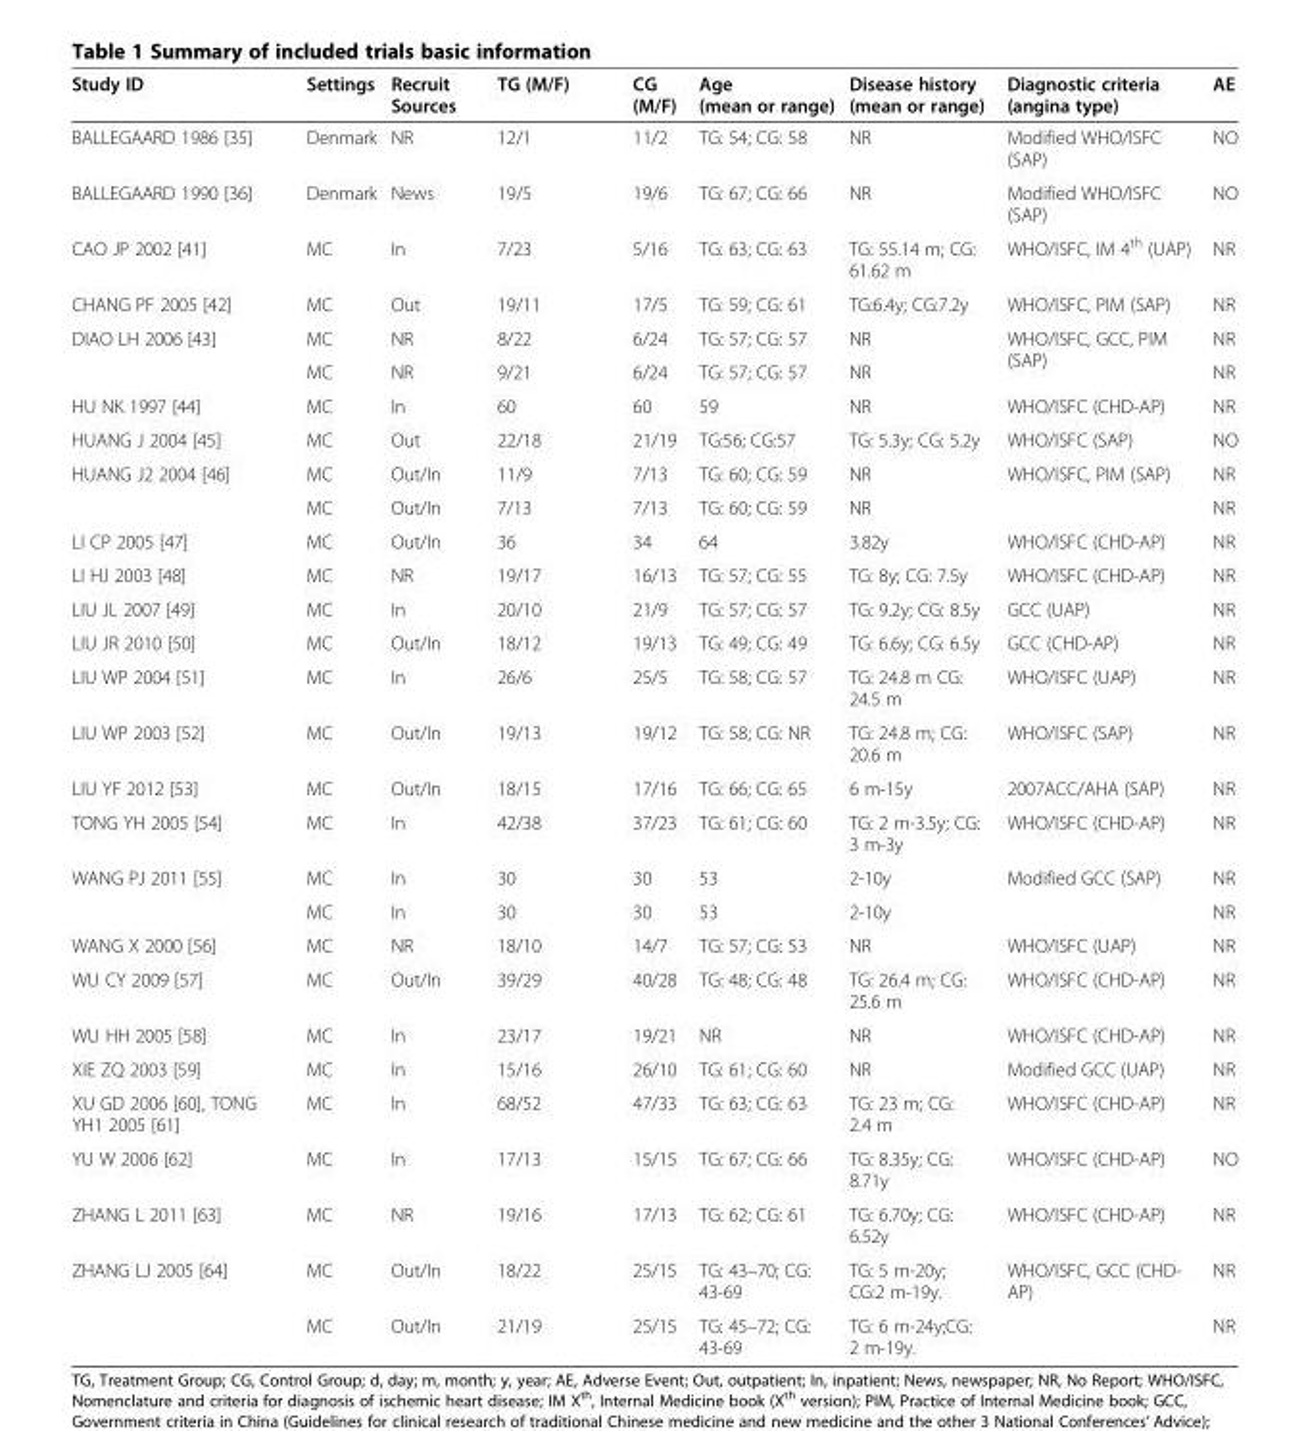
<table><thead><tr><td>Study ID</td><td>Settings</td><td>Recruit Sources</td><td>TG (M/F)</td><td>CG (M/F)</td><td>Age (mean or range)</td><td>Disease history (mean or range)</td><td>Diagnostic criteria (angina type)</td><td>AE</td></tr></thead><tbody><tr><td>BALLEGAARD 1986 [35]</td><td>Denmark</td><td>NR</td><td>12/1</td><td>11/2</td><td>TG: 54; CG: 58</td><td>NR</td><td>Modified WHO/ISFC (SAP)</td><td>NO</td></tr><tr><td>BALLEGAARD 1990 [36]</td><td>Denmark</td><td>News</td><td>19/5</td><td>19/6</td><td>TG: 67; CG: 66</td><td>NR</td><td>Modified WHO/ISFC (SAP)</td><td>NO</td></tr><tr><td>CAO JP 2002 [41]</td><td>MC</td><td>In</td><td>7/23</td><td>5/16</td><td>TG: 63; CG: 63</td><td>TG: 55.14 m; CG: 61.62 m</td><td>WHO/ISFC, IM 4<sup>th</sup> (UAP)</td><td>NR</td></tr><tr><td>CHANG PF 2005 [42]</td><td>MC</td><td>Out</td><td>19/11</td><td>17/5</td><td>TG: 59; CG: 61</td><td>TG:6.4y; CG:7.2y</td><td>WHO/ISFC, PIM (SAP)</td><td>NR</td></tr><tr><td rowspan="2">DIAO LH 2006 [43]</td><td>MC</td><td>NR</td><td>8/22</td><td>6/24</td><td>TG: 57; CG: 57</td><td>NR</td><td rowspan="2">WHO/ISFC, GCC, PIM (SAP)</td><td>NR</td></tr><tr><td>MC</td><td>NR</td><td>9/21</td><td>6/24</td><td>TG: 57; CG: 57</td><td>NR</td><td>NR</td></tr><tr><td>HU NK 1997 [44]</td><td>MC</td><td>In</td><td>60</td><td>60</td><td>59</td><td>NR</td><td>WHO/ISFC (CHD-AP)</td><td>NR</td></tr><tr><td>HUANG J 2004 [45]</td><td>MC</td><td>Out</td><td>22/18</td><td>21/19</td><td>TG:56; CG:57</td><td>TG: 5.3y; CG: 5.2y</td><td>WHO/ISFC (SAP)</td><td>NO</td></tr><tr><td rowspan="2">HUANG J2 2004 [46]</td><td>MC</td><td>Out/In</td><td>11/9</td><td>7/13</td><td>TG: 60; CG: 59</td><td>NR</td><td rowspan="2">WHO/ISFC, PIM (SAP)</td><td>NR</td></tr><tr><td>MC</td><td>Out/In</td><td>7/13</td><td>7/13</td><td>TG: 60; CG: 59</td><td>NR</td><td>NR</td></tr><tr><td>LI CP 2005 [47]</td><td>MC</td><td>Out/In</td><td>36</td><td>34</td><td>64</td><td>3.82y</td><td>WHO/ISFC (CHD-AP)</td><td>NR</td></tr><tr><td>LI HJ 2003 [48]</td><td>MC</td><td>NR</td><td>19/17</td><td>16/13</td><td>TG: 57; CG: 55</td><td>TG: 8y; CG: 7.5y</td><td>WHO/ISFC (CHD-AP)</td><td>NR</td></tr><tr><td>LIU JL 2007 [49]</td><td>MC</td><td>In</td><td>20/10</td><td>21/9</td><td>TG: 57; CG: 57</td><td>TG: 9.2y; CG: 8.5y</td><td>GCC (UAP)</td><td>NR</td></tr><tr><td>LIU JR 2010 [50]</td><td>MC</td><td>Out/In</td><td>18/12</td><td>19/13</td><td>TG: 49; CG: 49</td><td>TG: 6.6y; CG: 6.5y</td><td>GCC (CHD-AP)</td><td>NR</td></tr><tr><td>LIU WP 2004 [51]</td><td>MC</td><td>In</td><td>26/6</td><td>25/5</td><td>TG: 58; CG: 57</td><td>TG: 24.8 m CG: 24.5 m</td><td>WHO/ISFC (UAP)</td><td>NR</td></tr><tr><td>LIU WP 2003 [52]</td><td>MC</td><td>Out/In</td><td>19/13</td><td>19/12</td><td>TG: 58; CG: NR</td><td>TG: 24.8 m; CG: 20.6 m</td><td>WHO/ISFC (SAP)</td><td>NR</td></tr><tr><td>LIU YF 2012 [53]</td><td>MC</td><td>Out/In</td><td>18/15</td><td>17/16</td><td>TG: 66; CG: 65</td><td>6 m-15y</td><td>2007ACC/AHA (SAP)</td><td>NR</td></tr><tr><td>TONG YH 2005 [54]</td><td>MC</td><td>In</td><td>42/38</td><td>37/23</td><td>TG: 61; CG: 60</td><td>TG: 2 m-3.5y; CG: 3 m-3y</td><td>WHO/ISFC (CHD-AP)</td><td>NR</td></tr><tr><td rowspan="2">WANG PJ 2011 [55]</td><td>MC</td><td>In</td><td>30</td><td>30</td><td>53</td><td>2-10y</td><td rowspan="2">Modified GCC (SAP)</td><td>NR</td></tr><tr><td>MC</td><td>In</td><td>30</td><td>30</td><td>53</td><td>2-10y</td><td>NR</td></tr><tr><td>WANG X 2000 [56]</td><td>MC</td><td>NR</td><td>18/10</td><td>14/7</td><td>TG: 57; CG: 53</td><td>NR</td><td>WHO/ISFC (UAP)</td><td>NR</td></tr><tr><td>WU CY 2009 [57]</td><td>MC</td><td>Out/In</td><td>39/29</td><td>40/28</td><td>TG: 48; CG: 48</td><td>TG: 26.4 m; CG: 25.6 m</td><td>WHO/ISFC (CHD-AP)</td><td>NR</td></tr><tr><td>WU HH 2005 [58]</td><td>MC</td><td>In</td><td>23/17</td><td>19/21</td><td>NR</td><td>NR</td><td>WHO/ISFC (CHD-AP)</td><td>NR</td></tr><tr><td>XIE ZQ 2003 [59]</td><td>MC</td><td>In</td><td>15/16</td><td>26/10</td><td>TG: 61; CG: 60</td><td>NR</td><td>Modified GCC (UAP)</td><td>NR</td></tr><tr><td>XU GD 2006 [60], TONG YH1 2005 [61]</td><td>MC</td><td>In</td><td>68/52</td><td>47/33</td><td>TG: 63; CG: 63</td><td>TG: 23 m; CG: 2.4 m</td><td>WHO/ISFC (CHD-AP)</td><td>NR</td></tr><tr><td>YU W 2006 [62]</td><td>MC</td><td>In</td><td>17/13</td><td>15/15</td><td>TG: 67; CG: 66</td><td>TG: 8.35y; CG: 8.71y</td><td>WHO/ISFC (CHD-AP)</td><td>NO</td></tr><tr><td>ZHANG L 2011 [63]</td><td>MC</td><td>NR</td><td>19/16</td><td>17/13</td><td>TG: 62; CG: 61</td><td>TG: 6.70y; CG: 6.52y</td><td>WHO/ISFC (CHD-AP)</td><td>NR</td></tr><tr><td rowspan="2">ZHANG LJ 2005 [64]</td><td>MC</td><td>Out/In</td><td>18/22</td><td>25/15</td><td>TG: 43–70; CG: 43-69</td><td>TG: 5 m-20y; CG:2 m-19y.</td><td rowspan="2">WHO/ISFC, GCC (CHD- AP)</td><td>NR</td></tr><tr><td>MC</td><td>Out/In</td><td>21/19</td><td>25/15</td><td>TG: 45–72; CG: 43-69</td><td>TG: 6 m-24y;CG: 2 m-19y.</td><td>NR</td></tr></tbody></table>